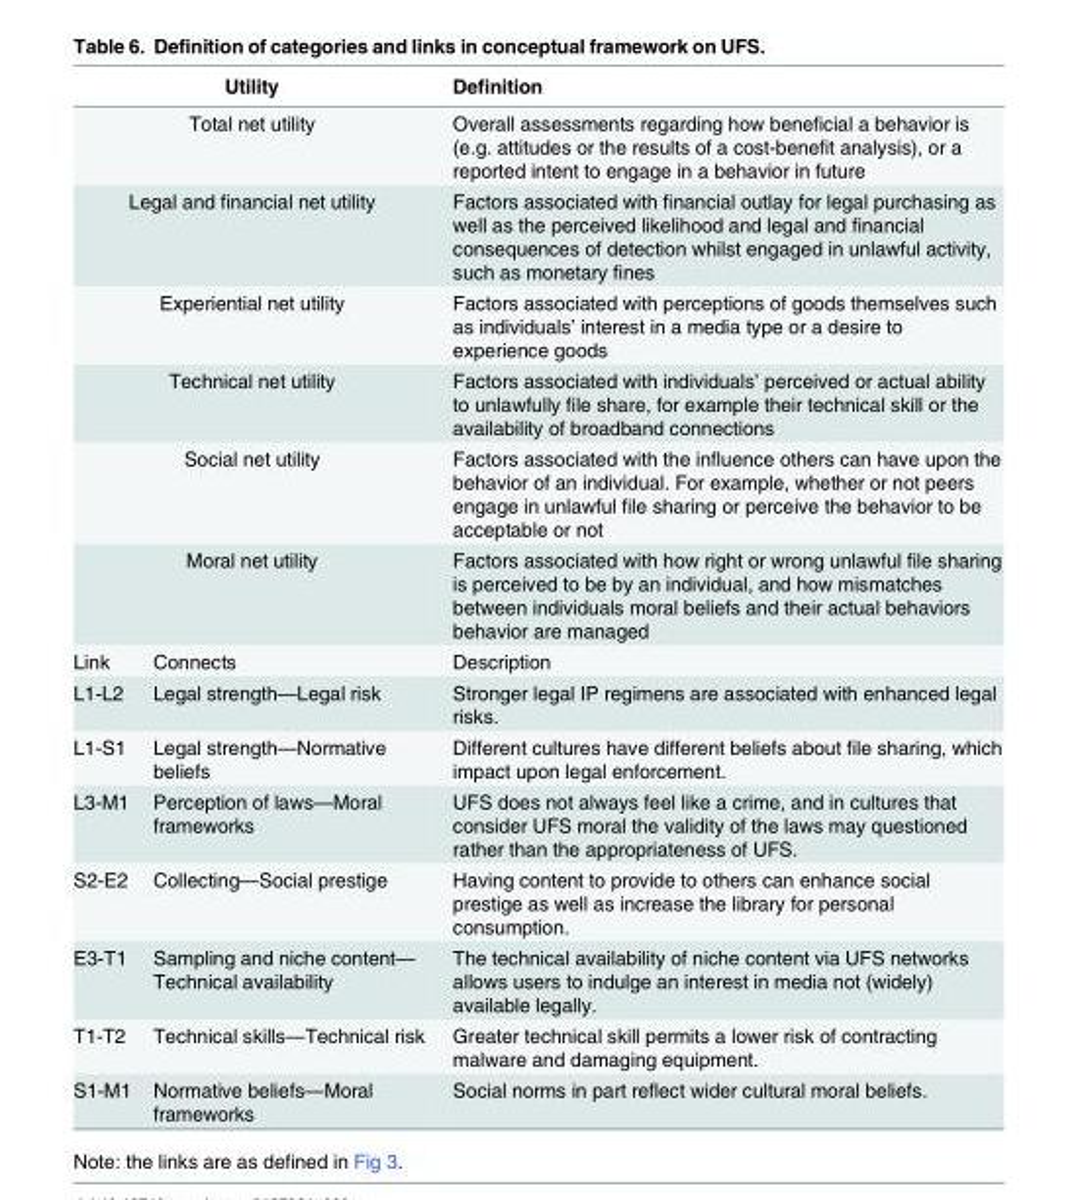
<table><thead><tr><td colspan="2">Utility</td><td>Definition</td></tr></thead><tbody><tr><td colspan="2">Total net utility</td><td>Overall assessments regarding how beneficial a behavior is (e.g. attitudes or the results of a cost-benefit analysis), or a reported intent to engage in a behavior in future</td></tr><tr><td colspan="2">Legal and financial net utility</td><td>Factors associated with financial outlay for legal purchasing as well as the perceived likelihood and legal and financial consequences of detection whilst engaged in unlawful activity, such as monetary fines</td></tr><tr><td colspan="2">Experiential net utility</td><td>Factors associated with perceptions of goods themselves such as individuals’ interest in a media type or a desire to experience goods</td></tr><tr><td colspan="2">Technical net utility</td><td>Factors associated with individuals’ perceived or actual ability to unlawfully file share, for example their technical skill or the availability of broadband connections</td></tr><tr><td colspan="2">Social net utility</td><td>Factors associated with the influence others can have upon the behavior of an individual. For example, whether or not peers engage in unlawful file sharing or perceive the behavior to be acceptable or not</td></tr><tr><td colspan="2">Moral net utility</td><td>Factors associated with how right or wrong unlawful file sharing is perceived to be by an individual, and how mismatches between individuals moral beliefs and their actual behaviors behavior are managed</td></tr><tr><td>Link</td><td>Connects</td><td>Description</td></tr><tr><td>L1-L2</td><td>Legal strength—Legal risk</td><td>Stronger legal IP regimens are associated with enhanced legal risks.</td></tr><tr><td>L1-S1</td><td>Legal strength—Normative beliefs</td><td>Different cultures have different beliefs about file sharing, which impact upon legal enforcement.</td></tr><tr><td>L3-M1</td><td>Perception of laws—Moral frameworks</td><td>UFS does not always feel like a crime, and in cultures that consider UFS moral the validity of the laws may questioned rather than the appropriateness of UFS.</td></tr><tr><td>S2-E2</td><td>Collecting—Social prestige</td><td>Having content to provide to others can enhance social prestige as well as increase the library for personal consumption.</td></tr><tr><td>E3-T1</td><td>Sampling and niche content— Technical availability</td><td>The technical availability of niche content via UFS networks allows users to indulge an interest in media not (widely) available legally.</td></tr><tr><td>T1-T2</td><td>Technical skills—Technical risk</td><td>Greater technical skill permits a lower risk of contracting malware and damaging equipment.</td></tr><tr><td>S1-M1</td><td>Normative beliefs—Moral frameworks</td><td>Social norms in part reflect wider cultural moral beliefs.</td></tr></tbody></table>